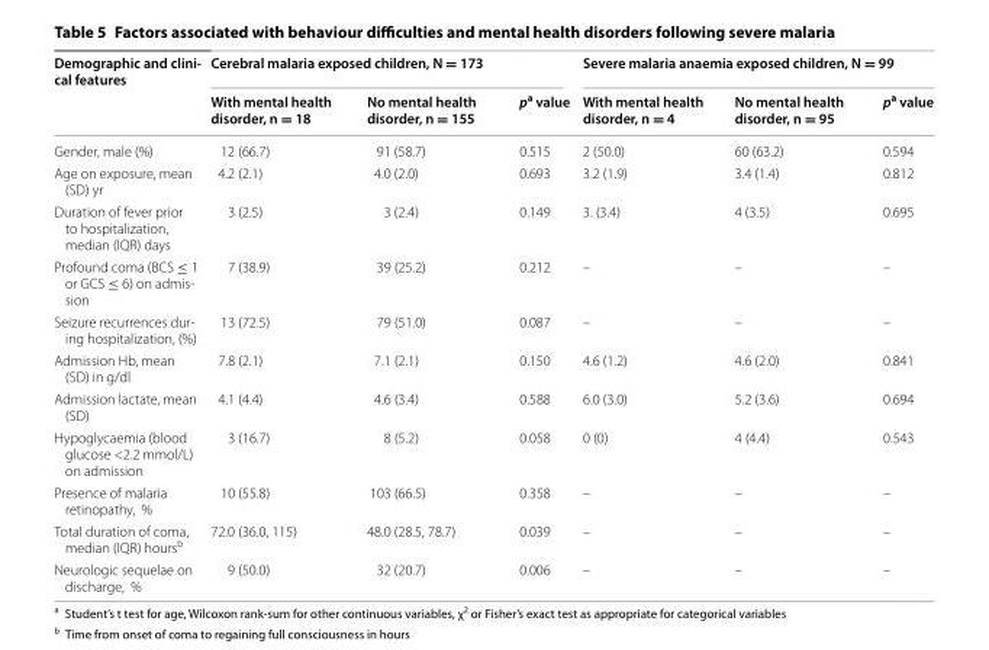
<table><thead><tr><td rowspan="2">Demographic and clini- cal features</td><td colspan="3">Cerebral malaria exposed children, N = 173</td><td colspan="3">Severe malaria anaemia exposed children, N = 99</td></tr><tr><td>With mental health disorder, n = 18</td><td>No mental health disorder, n = 155</td><td>p<sup>a</sup> value</td><td>With mental health disorder, n = 4</td><td>No mental health disorder, n = 95</td><td>p<sup>a</sup> value</td></tr></thead><tbody><tr><td>Gender, male (%)</td><td>12 (66.7)</td><td>91 (58.7)</td><td>0.515</td><td>2 (50.0)</td><td>60 (63.2)</td><td>0.594</td></tr><tr><td>Age on exposure, mean (SD) yr</td><td>4.2 (2.1)</td><td>4.0 (2.0)</td><td>0.693</td><td>3.2 (1.9)</td><td>3.4 (1.4)</td><td>0.812</td></tr><tr><td>Duration of fever prior to hospitalization, median (IQR) days</td><td>3 (2.5)</td><td>3 (2.4)</td><td>0.149</td><td>3. (3.4)</td><td>4 (3.5)</td><td>0.695</td></tr><tr><td>Profound coma (BCS ≤ 1 or GCS ≤ 6) on admis‑ sion</td><td>7 (38.9)</td><td>39 (25.2)</td><td>0.212</td><td>–</td><td>–</td><td>–</td></tr><tr><td>Seizure recurrences dur‑ ing hospitalization, (%)</td><td>13 (72.5)</td><td>79 (51.0)</td><td>0.087</td><td>–</td><td>–</td><td>–</td></tr><tr><td>Admission Hb, mean (SD) in g/dl</td><td>7.8 (2.1)</td><td>7.1 (2.1)</td><td>0.150</td><td>4.6 (1.2)</td><td>4.6 (2.0)</td><td>0.841</td></tr><tr><td>Admission lactate, mean (SD)</td><td>4.1 (4.4)</td><td>4.6 (3.4)</td><td>0.588</td><td>6.0 (3.0)</td><td>5.2 (3.6)</td><td>0.694</td></tr><tr><td>Hypoglycaemia (blood glucose &lt;2.2 mmol/L) on admission</td><td>3 (16.7)</td><td>8 (5.2)</td><td>0.058</td><td>0 (0)</td><td>4 (4.4)</td><td>0.543</td></tr><tr><td>Presence of malaria retinopathy, %</td><td>10 (55.8)</td><td>103 (66.5)</td><td>0.358</td><td>–</td><td>–</td><td>–</td></tr><tr><td>Total duration of coma, median (IQR) hours<sup>b</sup></td><td>72.0 (36.0, 115)</td><td>48.0 (28.5, 78.7)</td><td>0.039</td><td>–</td><td>–</td><td>–</td></tr><tr><td>Neurologic sequelae on discharge, %</td><td>9 (50.0)</td><td>32 (20.7)</td><td>0.006</td><td>–</td><td>–</td><td>–</td></tr></tbody></table>